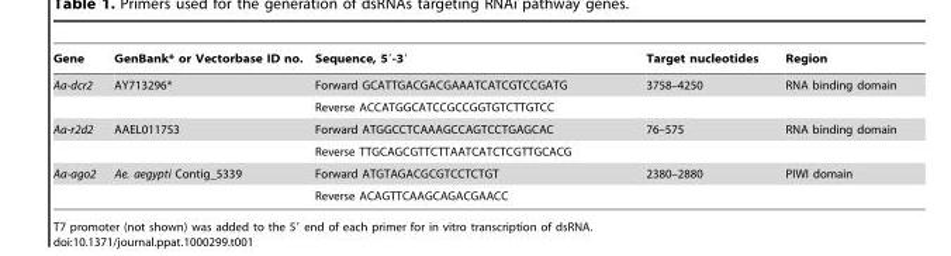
<table><thead><tr><td>Gene</td><td>GenBank* or Vectorbase ID no.</td><td>Sequence, 5′-3′</td><td>Target nucleotides</td><td>Region</td></tr></thead><tbody><tr><td rowspan="2">Aa-dcr2</td><td>AY713296*</td><td>Forward GCATTGACGACGAAATCATCGTCCGATG</td><td>3758–4250</td><td>RNA binding domain</td></tr><tr><td></td><td>Reverse ACCATGGCATCCGCCGGTGTCTTGTCC</td><td></td><td></td></tr><tr><td rowspan="2">Aa-r2d2</td><td>AAEL011753</td><td>Forward ATGGCCTCAAAGCCAGTCCTGAGCAC</td><td>76–575</td><td>RNA binding domain</td></tr><tr><td></td><td>Reverse TTGCAGCGTTCTTAATCATCTCGTTGCACG</td><td></td><td></td></tr><tr><td rowspan="2">Aa-ago2</td><td>Ae. aegypti Contig_5339</td><td>Forward ATGTAGACGCGTCCTCTGT</td><td>2380–2880</td><td>PIWI domain</td></tr><tr><td></td><td>Reverse ACAGTTCAAGCAGACGAACC</td><td></td><td></td></tr></tbody></table>